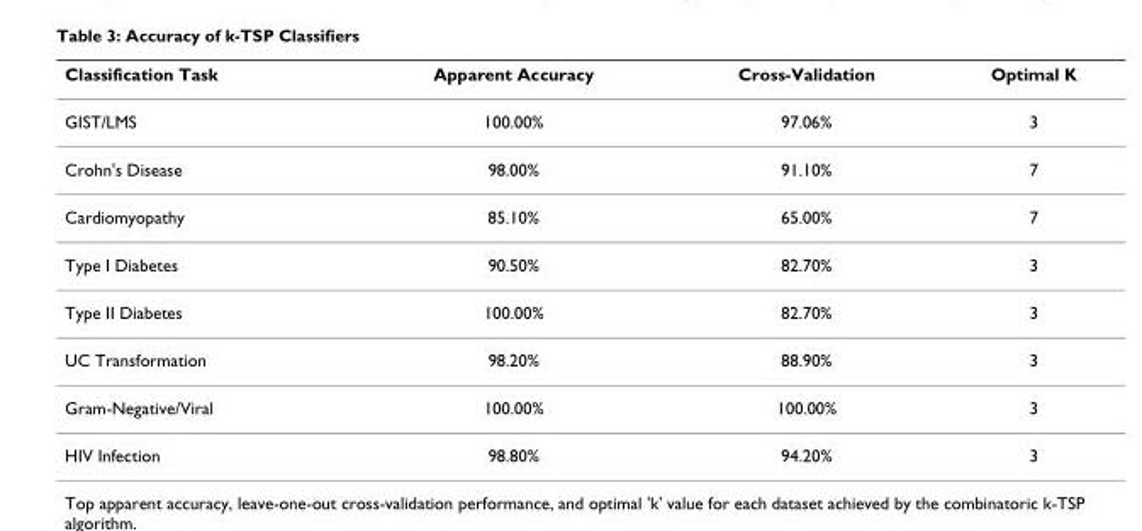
<table><thead><tr><td>Classification Task</td><td>Apparent Accuracy</td><td>Cross-Validation</td><td>Optimal K</td></tr></thead><tbody><tr><td>GIST/LMS</td><td>100.00%</td><td>97.06%</td><td>3</td></tr><tr><td>Crohn&#x27;s Disease</td><td>98.00%</td><td>91.10%</td><td>7</td></tr><tr><td>Cardiomyopathy</td><td>85.10%</td><td>65.00%</td><td>7</td></tr><tr><td>Type I Diabetes</td><td>90.50%</td><td>82.70%</td><td>3</td></tr><tr><td>Type II Diabetes</td><td>100.00%</td><td>82.70%</td><td>3</td></tr><tr><td>UC Transformation</td><td>98.20%</td><td>88.90%</td><td>3</td></tr><tr><td>Gram-Negative/Viral</td><td>100.00%</td><td>100.00%</td><td>3</td></tr><tr><td>HIV Infection</td><td>98.80%</td><td>94.20%</td><td>3</td></tr></tbody></table>